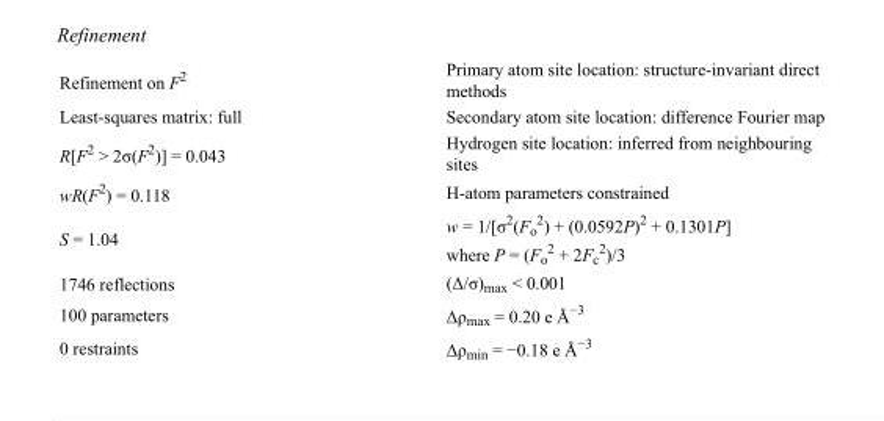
<table><tbody><tr><td>Refinement on F<sup>2</sup></td><td>Primary atom site location: structure-invariant direct methods</td></tr><tr><td>Least-squares matrix: full</td><td>Secondary atom site location: difference Fourier map</td></tr><tr><td>R[F<sup>2</sup> &gt; 2σ(F<sup>2</sup>)] = 0.043</td><td>Hydrogen site location: inferred from neighbouring sites</td></tr><tr><td>wR(F<sup>2</sup>) = 0.118</td><td>H-atom parameters constrained</td></tr><tr><td>S = 1.04</td><td>w = 1/[σ<sup>2</sup>(F<sub>o</sub> <sup>2</sup>) + (0.0592P)<sup>2</sup> + 0.1301P] where P = (F<sub>o</sub> <sup>2</sup> + 2F<sub>c</sub> <sup>2</sup>)/3</td></tr><tr><td>1746 reflections</td><td>(Δ/σ)<sub>max</sub> &lt; 0.001</td></tr><tr><td>100 parameters</td><td>Δρ<sub>max</sub> = 0.20 e Å<sup>−3</sup></td></tr><tr><td>0 restraints</td><td>Δρ<sub>min</sub> = −0.18 e Å<sup>−3</sup></td></tr></tbody></table>